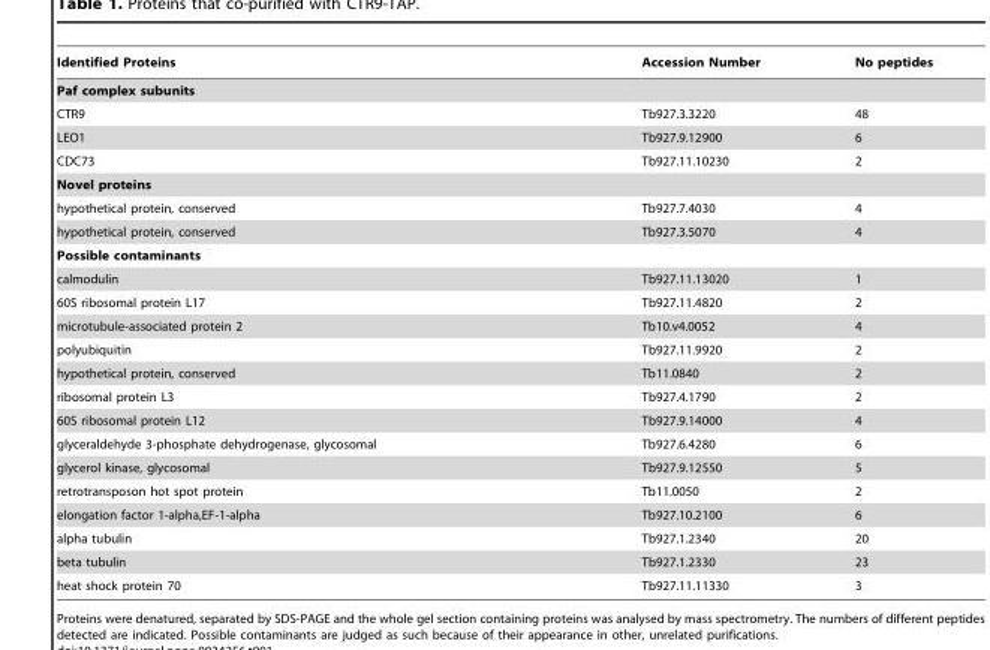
<table><thead><tr><td>Identified Proteins</td><td>Accession Number</td><td>No peptides</td></tr></thead><tbody><tr><td colspan="3">Paf complex subunits</td></tr><tr><td>CTR9</td><td>Tb927.3.3220</td><td>48</td></tr><tr><td>LEO1</td><td>Tb927.9.12900</td><td>6</td></tr><tr><td>CDC73</td><td>Tb927.11.10230</td><td>2</td></tr><tr><td colspan="3">Novel proteins</td></tr><tr><td>hypothetical protein, conserved</td><td>Tb927.7.4030</td><td>4</td></tr><tr><td>hypothetical protein, conserved</td><td>Tb927.3.5070</td><td>4</td></tr><tr><td colspan="3">Possible contaminants</td></tr><tr><td>calmodulin</td><td>Tb927.11.13020</td><td>1</td></tr><tr><td>60S ribosomal protein L17</td><td>Tb927.11.4820</td><td>2</td></tr><tr><td>microtubule-associated protein 2</td><td>Tb10.v4.0052</td><td>4</td></tr><tr><td>polyubiquitin</td><td>Tb927.11.9920</td><td>2</td></tr><tr><td>hypothetical protein, conserved</td><td>Tb11.0840</td><td>2</td></tr><tr><td>ribosomal protein L3</td><td>Tb927.4.1790</td><td>2</td></tr><tr><td>60S ribosomal protein L12</td><td>Tb927.9.14000</td><td>4</td></tr><tr><td>glyceraldehyde 3-phosphate dehydrogenase, glycosomal</td><td>Tb927.6.4280</td><td>6</td></tr><tr><td>glycerol kinase, glycosomal</td><td>Tb927.9.12550</td><td>5</td></tr><tr><td>retrotransposon hot spot protein</td><td>Tb11.0050</td><td>2</td></tr><tr><td>elongation factor 1-alpha,EF-1-alpha</td><td>Tb927.10.2100</td><td>6</td></tr><tr><td>alpha tubulin</td><td>Tb927.1.2340</td><td>20</td></tr><tr><td>beta tubulin</td><td>Tb927.1.2330</td><td>23</td></tr><tr><td>heat shock protein 70</td><td>Tb927.11.11330</td><td>3</td></tr></tbody></table>